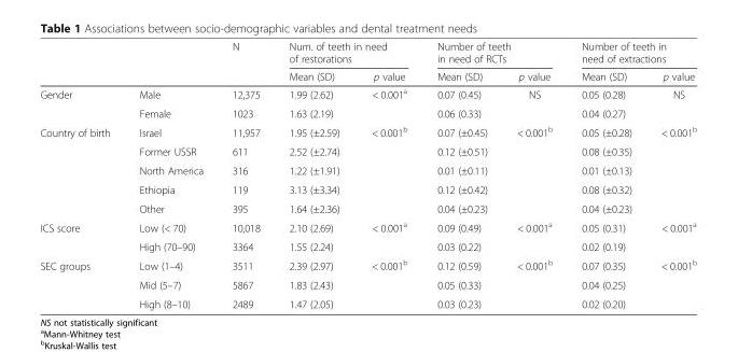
<table><thead><tr><td rowspan="2"></td><td rowspan="2"></td><td rowspan="2">N</td><td colspan="2">Num. of teeth in need of restorations</td><td colspan="2">Number of teeth in need of RCTs</td><td colspan="2">Number of teeth in need of extractions</td></tr><tr><td>Mean (SD)</td><td>p value</td><td>Mean (SD)</td><td>p value</td><td>Mean (SD)</td><td>p value</td></tr></thead><tbody><tr><td rowspan="2">Gender</td><td>Male</td><td>12,375</td><td>1.99 (2.62)</td><td rowspan="2">&lt; 0.001<sup>a</sup></td><td>0.07 (0.45)</td><td rowspan="2">NS</td><td>0.05 (0.28)</td><td rowspan="2">NS</td></tr><tr><td>Female</td><td>1023</td><td>1.63 (2.19)</td><td>0.06 (0.33)</td><td>0.04 (0.27)</td></tr><tr><td rowspan="5">Country of birth</td><td>Israel</td><td>11,957</td><td>1.95 (±2.59)</td><td rowspan="5">&lt; 0.001<sup>b</sup></td><td>0.07 (±0.45)</td><td rowspan="5">&lt; 0.001<sup>b</sup></td><td>0.05 (±0.28)</td><td rowspan="5">&lt; 0.001<sup>b</sup></td></tr><tr><td>Former USSR</td><td>611</td><td>2.52 (±2.74)</td><td>0.12 (±0.51)</td><td>0.08 (±0.35)</td></tr><tr><td>North America</td><td>316</td><td>1.22 (±1.91)</td><td>0.01 (±0.11)</td><td>0.01 (±0.13)</td></tr><tr><td>Ethiopia</td><td>119</td><td>3.13 (±3.34)</td><td>0.12 (±0.42)</td><td>0.08 (±0.32)</td></tr><tr><td>Other</td><td>395</td><td>1.64 (±2.36)</td><td>0.04 (±0.23)</td><td>0.04 (±0.23)</td></tr><tr><td rowspan="2">ICS score</td><td>Low (&lt; 70)</td><td>10,018</td><td>2.10 (2.69)</td><td rowspan="2">&lt; 0.001<sup>a</sup></td><td>0.09 (0.49)</td><td rowspan="2">&lt; 0.001<sup>a</sup></td><td>0.05 (0.31)</td><td rowspan="2">&lt; 0.001<sup>a</sup></td></tr><tr><td>High (70–90)</td><td>3364</td><td>1.55 (2.24)</td><td>0.03 (0.22)</td><td>0.02 (0.19)</td></tr><tr><td rowspan="3">SEC groups</td><td>Low (1–4)</td><td>3511</td><td>2.39 (2.97)</td><td rowspan="3">&lt; 0.001<sup>b</sup></td><td>0.12 (0.59)</td><td rowspan="3">&lt; 0.001<sup>b</sup></td><td>0.07 (0.35)</td><td rowspan="3">&lt; 0.001<sup>b</sup></td></tr><tr><td>Mid (5–7)</td><td>5867</td><td>1.83 (2.43)</td><td>0.05 (0.33)</td><td>0.04 (0.25)</td></tr><tr><td>High (8–10)</td><td>2489</td><td>1.47 (2.05)</td><td>0.03 (0.23)</td><td>0.02 (0.20)</td></tr></tbody></table>